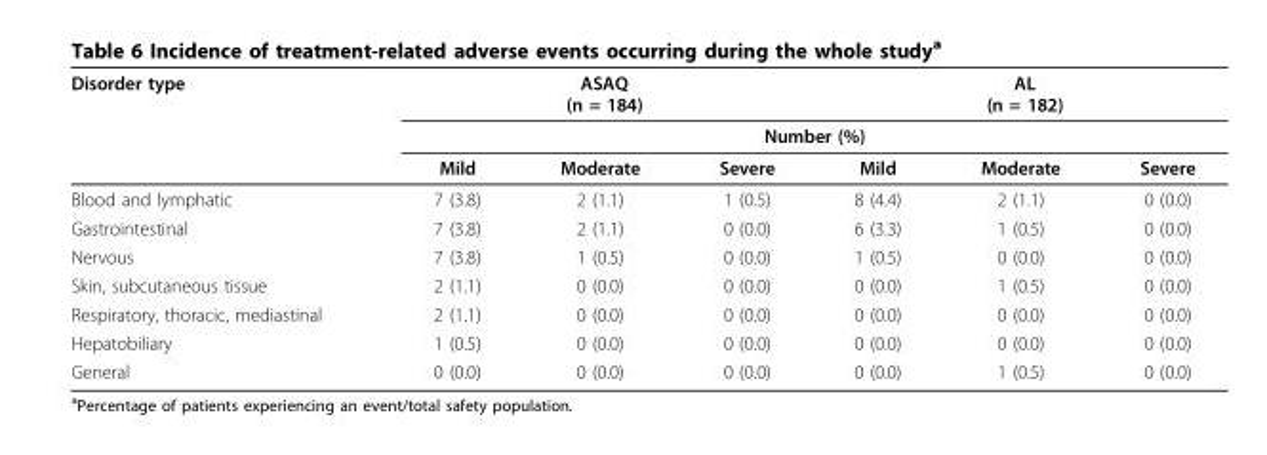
<table><thead><tr><td rowspan="3">Disorder type</td><td colspan="3">ASAQ (n = 184)</td><td colspan="3">AL (n = 182)</td></tr><tr><td colspan="6">Number (%)</td></tr><tr><td>Mild</td><td>Moderate</td><td>Severe</td><td>Mild</td><td>Moderate</td><td>Severe</td></tr></thead><tbody><tr><td>Blood and lymphatic</td><td>7 (3.8)</td><td>2 (1.1)</td><td>1 (0.5)</td><td>8 (4.4)</td><td>2 (1.1)</td><td>0 (0.0)</td></tr><tr><td>Gastrointestinal</td><td>7 (3.8)</td><td>2 (1.1)</td><td>0 (0.0)</td><td>6 (3.3)</td><td>1 (0.5)</td><td>0 (0.0)</td></tr><tr><td>Nervous</td><td>7 (3.8)</td><td>1 (0.5)</td><td>0 (0.0)</td><td>1 (0.5)</td><td>0 (0.0)</td><td>0 (0.0)</td></tr><tr><td>Skin, subcutaneous tissue</td><td>2 (1.1)</td><td>0 (0.0)</td><td>0 (0.0)</td><td>0 (0.0)</td><td>1 (0.5)</td><td>0 (0.0)</td></tr><tr><td>Respiratory, thoracic, mediastinal</td><td>2 (1.1)</td><td>0 (0.0)</td><td>0 (0.0)</td><td>0 (0.0)</td><td>0 (0.0)</td><td>0 (0.0)</td></tr><tr><td>Hepatobiliary</td><td>1 (0.5)</td><td>0 (0.0)</td><td>0 (0.0)</td><td>0 (0.0)</td><td>0 (0.0)</td><td>0 (0.0)</td></tr><tr><td>General</td><td>0 (0.0)</td><td>0 (0.0)</td><td>0 (0.0)</td><td>0 (0.0)</td><td>1 (0.5)</td><td>0 (0.0)</td></tr></tbody></table>